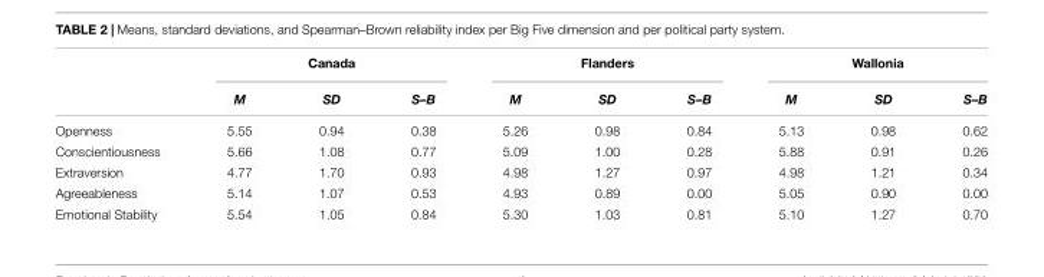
<table><thead><tr><td rowspan="2"></td><td colspan="3">Canada</td><td colspan="3">Flanders</td><td colspan="3">Wallonia</td></tr><tr><td>M</td><td>SD</td><td>S–B</td><td>M</td><td>SD</td><td>S–B</td><td>M</td><td>SD</td><td>S–B</td></tr></thead><tbody><tr><td>Openness</td><td>5.55</td><td>0.94</td><td>0.38</td><td>5.26</td><td>0.98</td><td>0.84</td><td>5.13</td><td>0.98</td><td>0.62</td></tr><tr><td>Conscientiousness</td><td>5.66</td><td>1.08</td><td>0.77</td><td>5.09</td><td>1.00</td><td>0.28</td><td>5.88</td><td>0.91</td><td>0.26</td></tr><tr><td>Extraversion</td><td>4.77</td><td>1.70</td><td>0.93</td><td>4.98</td><td>1.27</td><td>0.97</td><td>4.98</td><td>1.21</td><td>0.34</td></tr><tr><td>Agreeableness</td><td>5.14</td><td>1.07</td><td>0.53</td><td>4.93</td><td>0.89</td><td>0.00</td><td>5.05</td><td>0.90</td><td>0.00</td></tr><tr><td>Emotional Stability</td><td>5.54</td><td>1.05</td><td>0.84</td><td>5.30</td><td>1.03</td><td>0.81</td><td>5.10</td><td>1.27</td><td>0.70</td></tr></tbody></table>